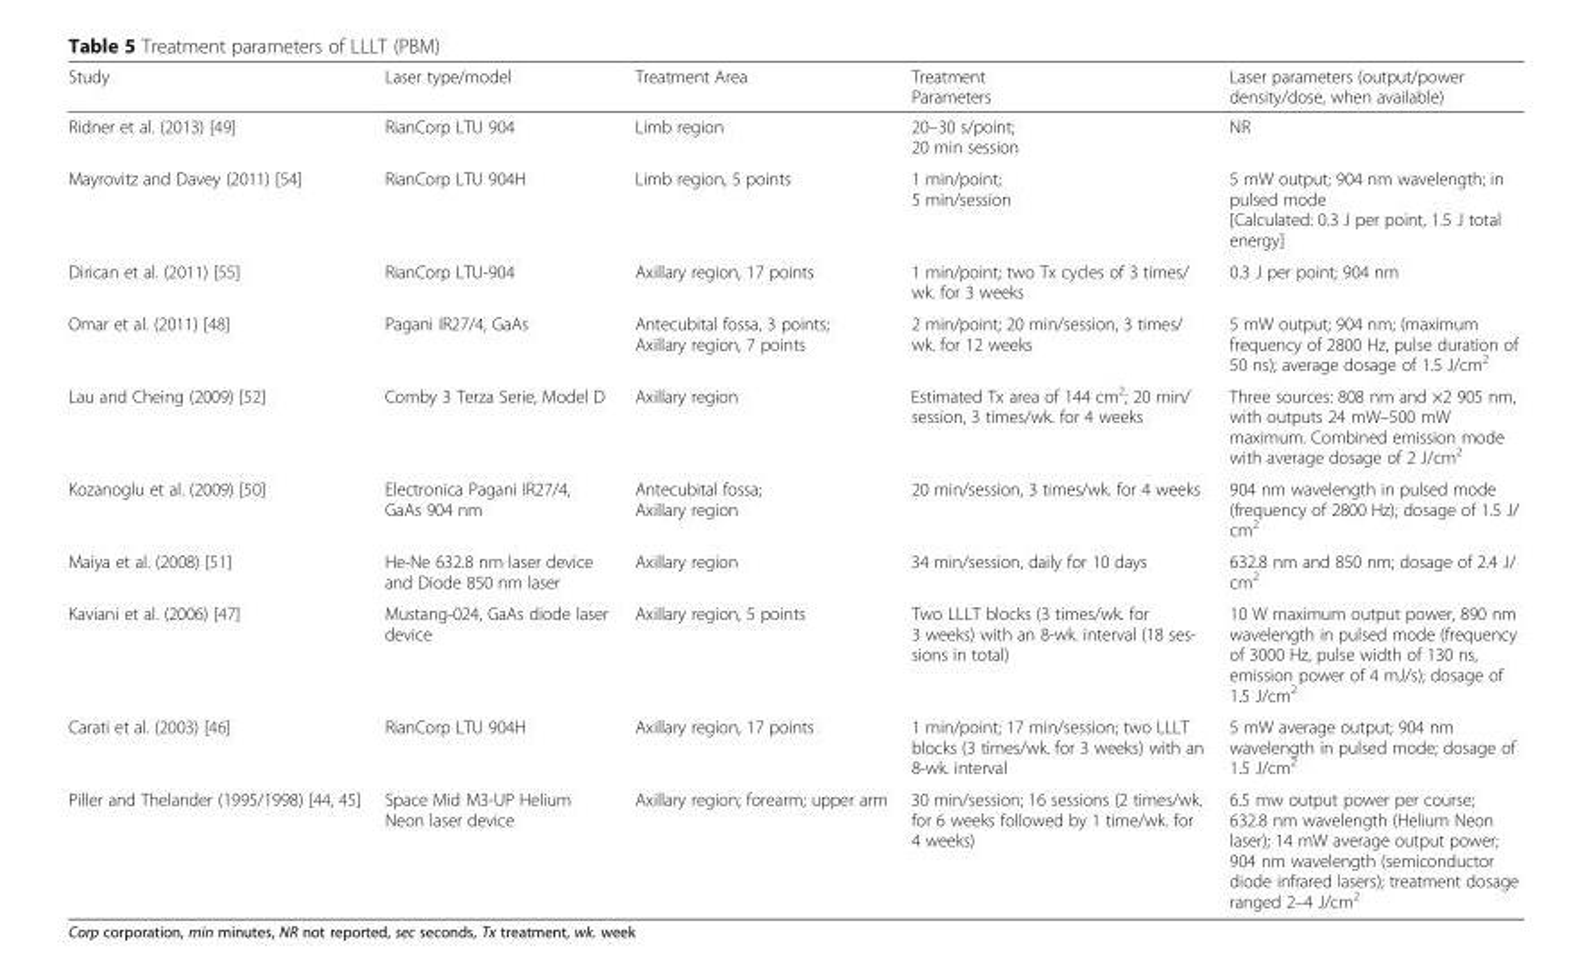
<table><thead><tr><td>Study</td><td>Laser type/model</td><td>Treatment Area</td><td>Treatment Parameters</td><td>Laser parameters (output/power density/dose, when available)</td></tr></thead><tbody><tr><td>Ridner et al. (2013) [49]</td><td>RianCorp LTU 904</td><td>Limb region</td><td>20–30 s/point; 20 min session</td><td>NR</td></tr><tr><td>Mayrovitz and Davey (2011) [54]</td><td>RianCorp LTU 904H</td><td>Limb region, 5 points</td><td>1 min/point; 5 min/session</td><td>5 mW output; 904 nm wavelength; in pulsed mode [Calculated: 0.3 J per point, 1.5 J total energy]</td></tr><tr><td>Dirican et al. (2011) [55]</td><td>RianCorp LTU-904</td><td>Axillary region, 17 points</td><td>1 min/point; two Tx cycles of 3 times/ wk. for 3 weeks</td><td>0.3 J per point; 904 nm</td></tr><tr><td>Omar et al. (2011) [48]</td><td>Pagani IR27/4, GaAs</td><td>Antecubital fossa, 3 points; Axillary region, 7 points</td><td>2 min/point; 20 min/session, 3 times/ wk. for 12 weeks</td><td>5 mW output; 904 nm; (maximum frequency of 2800 Hz, pulse duration of 50 ns); average dosage of 1.5 J/cm<sup>2</sup></td></tr><tr><td>Lau and Cheing (2009) [52]</td><td>Comby 3 Terza Serie, Model D</td><td>Axillary region</td><td>Estimated Tx area of 144 cm<sup>2</sup>; 20 min/ session, 3 times/wk. for 4 weeks</td><td>Three sources: 808 nm and ×2 905 nm, with outputs 24 mW–500 mW maximum. Combined emission mode with average dosage of 2 J/cm<sup>2</sup></td></tr><tr><td>Kozanoglu et al. (2009) [50]</td><td>Electronica Pagani IR27/4, GaAs 904 nm</td><td>Antecubital fossa; Axillary region</td><td>20 min/session, 3 times/wk. for 4 weeks</td><td>904 nm wavelength in pulsed mode (frequency of 2800 Hz); dosage of 1.5 J/ cm<sup>2</sup></td></tr><tr><td>Maiya et al. (2008) [51]</td><td>He-Ne 632.8 nm laser device and Diode 850 nm laser</td><td>Axillary region</td><td>34 min/session, daily for 10 days</td><td>632.8 nm and 850 nm; dosage of 2.4 J/ cm<sup>2</sup></td></tr><tr><td>Kaviani et al. (2006) [47]</td><td>Mustang-024, GaAs diode laser device</td><td>Axillary region, 5 points</td><td>Two LLLT blocks (3 times/wk. for 3 weeks) with an 8-wk. interval (18 ses- sions in total)</td><td>10 W maximum output power, 890 nm wavelength in pulsed mode (frequency of 3000 Hz, pulse width of 130 ns, emission power of 4 mJ/s); dosage of 1.5 J/cm<sup>2</sup></td></tr><tr><td>Carati et al. (2003) [46]</td><td>RianCorp LTU 904H</td><td>Axillary region, 17 points</td><td>1 min/point; 17 min/session; two LLLT blocks (3 times/wk. for 3 weeks) with an 8-wk. interval</td><td>5 mW average output; 904 nm wavelength in pulsed mode; dosage of 1.5 J/cm<sup>2</sup></td></tr><tr><td>Piller and Thelander (1995/1998) [44, 45]</td><td>Space Mid M3-UP Helium Neon laser device</td><td>Axillary region; forearm; upper arm</td><td>30 min/session; 16 sessions (2 times/wk. for 6 weeks followed by 1 time/wk. for 4 weeks)</td><td>6.5 mw output power per course; 632.8 nm wavelength (Helium Neon laser); 14 mW average output power; 904 nm wavelength (semiconductor diode infrared lasers); treatment dosage ranged 2–4 J/cm<sup>2</sup></td></tr></tbody></table>